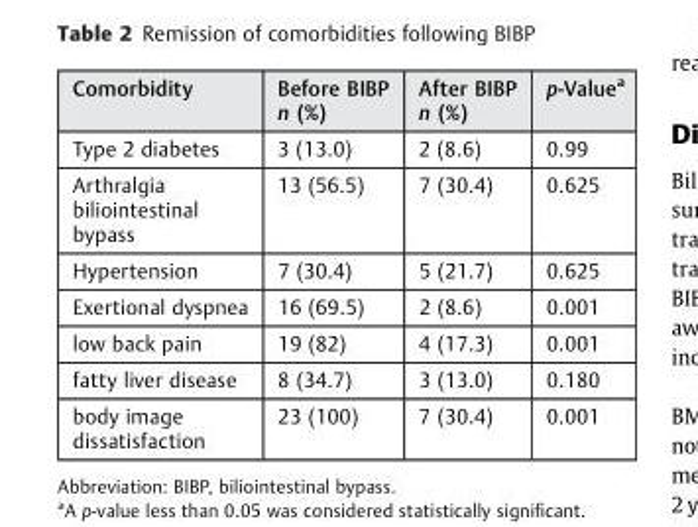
<table><thead><tr><td>Comorbidity</td><td>Before BIBP n (%)</td><td>After BIBP n (%)</td><td>p-Valuea</td></tr></thead><tbody><tr><td>Type 2 diabetes</td><td>3 (13.0)</td><td>2 (8.6)</td><td>0.99</td></tr><tr><td>Arthralgia biliointestinal bypass</td><td>13 (56.5)</td><td>7 (30.4)</td><td>0.625</td></tr><tr><td>Hypertension</td><td>7 (30.4)</td><td>5 (21.7)</td><td>0.625</td></tr><tr><td>Exertional dyspnea</td><td>16 (69.5)</td><td>2 (8.6)</td><td>0.001</td></tr><tr><td>low back pain</td><td>19 (82)</td><td>4 (17.3)</td><td>0.001</td></tr><tr><td>fatty liver disease</td><td>8 (34.7)</td><td>3 (13.0)</td><td>0.180</td></tr><tr><td>body image dissatisfaction</td><td>23 (100)</td><td>7 (30.4)</td><td>0.001</td></tr></tbody></table>